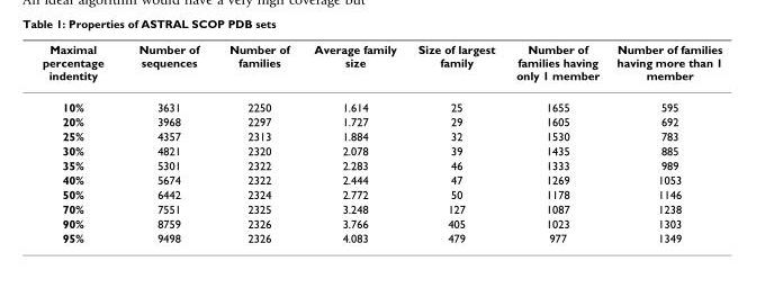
<table><thead><tr><td>Maximal percentage indentity</td><td>Number of sequences</td><td>Number of families</td><td>Average family size</td><td>Size of largest family</td><td>Number of families having only 1 member</td><td>Number of families having more than 1 member</td></tr></thead><tbody><tr><td>10%</td><td>3631</td><td>2250</td><td>1.614</td><td>25</td><td>1655</td><td>595</td></tr><tr><td>20%</td><td>3968</td><td>2297</td><td>1.727</td><td>29</td><td>1605</td><td>692</td></tr><tr><td>25%</td><td>4357</td><td>2313</td><td>1.884</td><td>32</td><td>1530</td><td>783</td></tr><tr><td>30%</td><td>4821</td><td>2320</td><td>2.078</td><td>39</td><td>1435</td><td>885</td></tr><tr><td>35%</td><td>5301</td><td>2322</td><td>2.283</td><td>46</td><td>1333</td><td>989</td></tr><tr><td>40%</td><td>5674</td><td>2322</td><td>2.444</td><td>47</td><td>1269</td><td>1053</td></tr><tr><td>50%</td><td>6442</td><td>2324</td><td>2.772</td><td>50</td><td>1178</td><td>1146</td></tr><tr><td>70%</td><td>7551</td><td>2325</td><td>3.248</td><td>127</td><td>1087</td><td>1238</td></tr><tr><td>90%</td><td>8759</td><td>2326</td><td>3.766</td><td>405</td><td>1023</td><td>1303</td></tr><tr><td>95%</td><td>9498</td><td>2326</td><td>4.083</td><td>479</td><td>977</td><td>1349</td></tr></tbody></table>